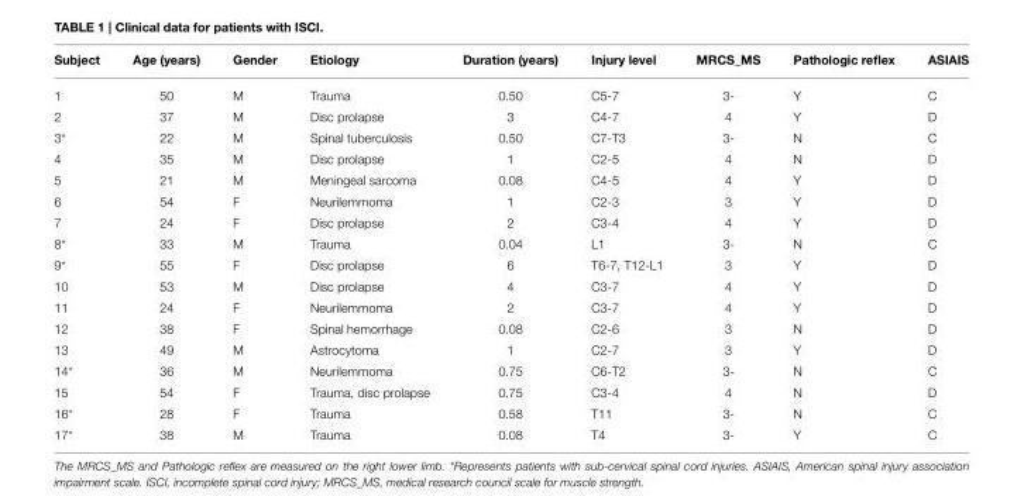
<table><thead><tr><td>Subject</td><td>Age (years)</td><td>Gender</td><td>Etiology</td><td>Duration (years)</td><td>Injury level</td><td>MRCS_MS</td><td>Pathologic reflex</td><td>ASIAIS</td></tr></thead><tbody><tr><td>1</td><td>50</td><td>M</td><td>Trauma</td><td>0.50</td><td>C5-7</td><td>3-</td><td>Y</td><td>C</td></tr><tr><td>2</td><td>37</td><td>M</td><td>Disc prolapse</td><td>3</td><td>C4-7</td><td>4</td><td>Y</td><td>D</td></tr><tr><td>3*</td><td>22</td><td>M</td><td>Spinal tuberculosis</td><td>0.50</td><td>C7-T3</td><td>3-</td><td>N</td><td>C</td></tr><tr><td>4</td><td>35</td><td>M</td><td>Disc prolapse</td><td>1</td><td>C2-5</td><td>4</td><td>N</td><td>D</td></tr><tr><td>5</td><td>21</td><td>M</td><td>Meningeal sarcoma</td><td>0.08</td><td>C4-5</td><td>4</td><td>Y</td><td>D</td></tr><tr><td>6</td><td>54</td><td>F</td><td>Neurilemmoma</td><td>1</td><td>C2-3</td><td>3</td><td>Y</td><td>D</td></tr><tr><td>7</td><td>24</td><td>F</td><td>Disc prolapse</td><td>2</td><td>C3-4</td><td>4</td><td>Y</td><td>D</td></tr><tr><td>8*</td><td>33</td><td>M</td><td>Trauma</td><td>0.04</td><td>L1</td><td>3-</td><td>N</td><td>C</td></tr><tr><td>9*</td><td>55</td><td>F</td><td>Disc prolapse</td><td>6</td><td>T6-7, T12-L1</td><td>3</td><td>Y</td><td>D</td></tr><tr><td>10</td><td>53</td><td>M</td><td>Disc prolapse</td><td>4</td><td>C3-7</td><td>4</td><td>Y</td><td>D</td></tr><tr><td>11</td><td>24</td><td>F</td><td>Neurilemmoma</td><td>2</td><td>C3-7</td><td>4</td><td>Y</td><td>D</td></tr><tr><td>12</td><td>38</td><td>F</td><td>Spinal hemorrhage</td><td>0.08</td><td>C2-6</td><td>3</td><td>N</td><td>D</td></tr><tr><td>13</td><td>49</td><td>M</td><td>Astrocytoma</td><td>1</td><td>C2-7</td><td>3</td><td>Y</td><td>D</td></tr><tr><td>14*</td><td>36</td><td>M</td><td>Neurilemmoma</td><td>0.75</td><td>C6-T2</td><td>3-</td><td>N</td><td>C</td></tr><tr><td>15</td><td>54</td><td>F</td><td>Trauma, disc prolapse</td><td>0.75</td><td>C3-4</td><td>4</td><td>N</td><td>D</td></tr><tr><td>16*</td><td>28</td><td>F</td><td>Trauma</td><td>0.58</td><td>T11</td><td>3-</td><td>N</td><td>C</td></tr><tr><td>17*</td><td>38</td><td>M</td><td>Trauma</td><td>0.08</td><td>T4</td><td>3-</td><td>Y</td><td>C</td></tr></tbody></table>